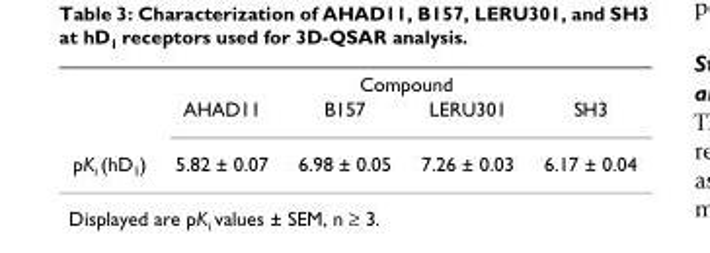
<table><thead><tr><td rowspan="2"></td><td colspan="4">Compound</td></tr><tr><td>AHAD11</td><td>B157</td><td>LERU301</td><td>SH3</td></tr></thead><tbody><tr><td>pK<sub>i</sub> (hD<sub>1</sub>)</td><td>5.82 ± 0.07</td><td>6.98 ± 0.05</td><td>7.26 ± 0.03</td><td>6.17 ± 0.04</td></tr></tbody></table>